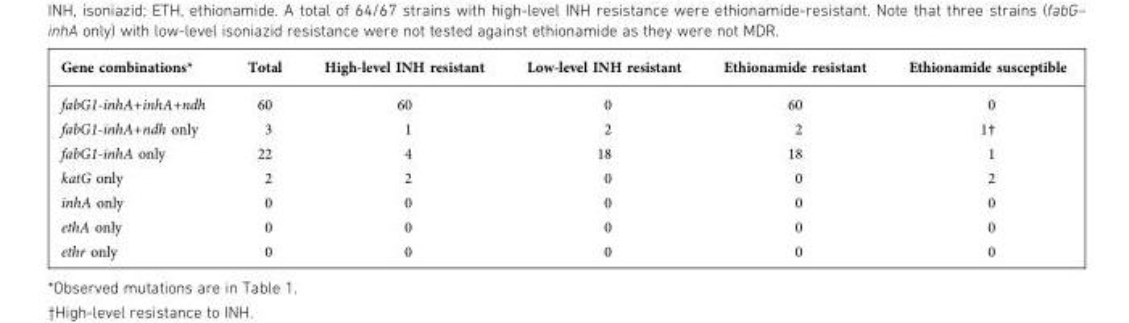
<table><thead><tr><td>Gene combinations*</td><td>Total</td><td>High-level INH resistant</td><td>Low-level INH resistant</td><td>Ethionamide resistant</td><td>Ethionamide susceptible</td></tr></thead><tbody><tr><td>fabG1-inhA+inhA+ndh</td><td>60</td><td>60</td><td>0</td><td>60</td><td>0</td></tr><tr><td>fabG1-inhA+ndh only</td><td>3</td><td>1</td><td>2</td><td>2</td><td>1†</td></tr><tr><td>fabG1-inhA only</td><td>22</td><td>4</td><td>18</td><td>18</td><td>1</td></tr><tr><td>katG only</td><td>2</td><td>2</td><td>0</td><td>0</td><td>2</td></tr><tr><td>inhA only</td><td>0</td><td>0</td><td>0</td><td>0</td><td>0</td></tr><tr><td>ethA only</td><td>0</td><td>0</td><td>0</td><td>0</td><td>0</td></tr><tr><td>ethr only</td><td>0</td><td>0</td><td>0</td><td>0</td><td>0</td></tr></tbody></table>